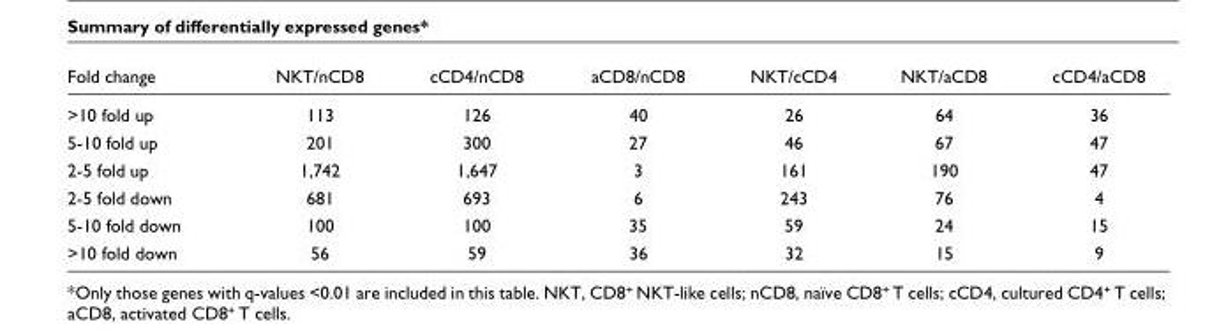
<table><thead><tr><td>Fold change</td><td>NKT/nCD8</td><td>cCD4/nCD8</td><td>aCD8/nCD8</td><td>NKT/cCD4</td><td>NKT/aCD8</td><td>cCD4/aCD8</td></tr></thead><tbody><tr><td>&gt;10 fold up</td><td>113</td><td>126</td><td>40</td><td>26</td><td>64</td><td>36</td></tr><tr><td>5-10 fold up</td><td>201</td><td>300</td><td>27</td><td>46</td><td>67</td><td>47</td></tr><tr><td>2-5 fold up</td><td>1,742</td><td>1,647</td><td>3</td><td>161</td><td>190</td><td>47</td></tr><tr><td>2-5 fold down</td><td>681</td><td>693</td><td>6</td><td>243</td><td>76</td><td>4</td></tr><tr><td>5-10 fold down</td><td>100</td><td>100</td><td>35</td><td>59</td><td>24</td><td>15</td></tr><tr><td>&gt;10 fold down</td><td>56</td><td>59</td><td>36</td><td>32</td><td>15</td><td>9</td></tr></tbody></table>